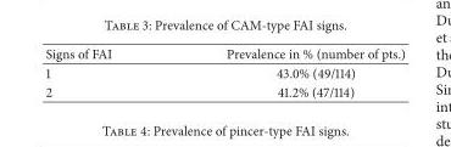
<table><thead><tr><td>Signs of FAI</td><td>Prevalence in % (number of pts.)</td></tr></thead><tbody><tr><td>1</td><td>43.0% (49/114)</td></tr><tr><td>2</td><td>41.2% (47/114)</td></tr></tbody></table>